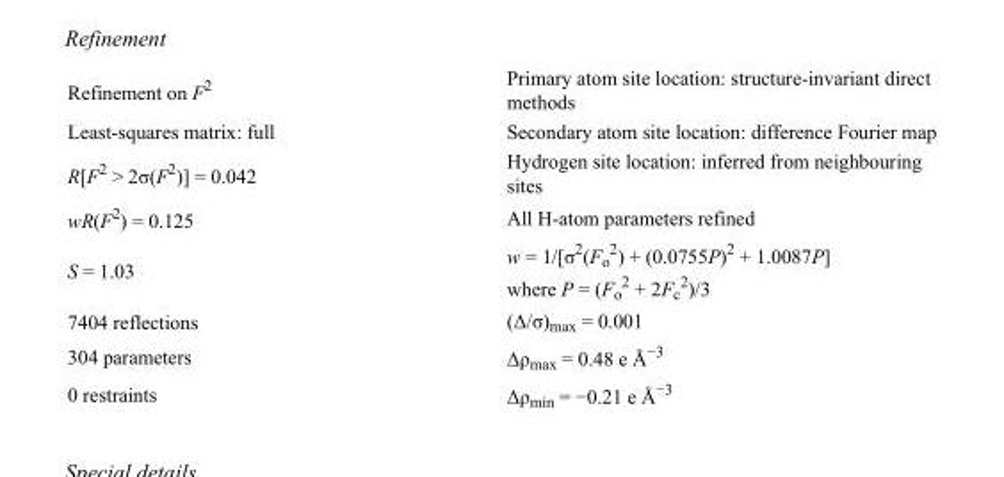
<table><tbody><tr><td>Refinement on F<sup>2</sup></td><td>Primary atom site location: structure-invariant direct methods</td></tr><tr><td>Least-squares matrix: full</td><td>Secondary atom site location: difference Fourier map</td></tr><tr><td>R[F<sup>2</sup> &gt; 2σ(F<sup>2</sup>)] = 0.042</td><td>Hydrogen site location: inferred from neighbouring sites</td></tr><tr><td>wR(F<sup>2</sup>) = 0.125</td><td>All H-atom parameters refined</td></tr><tr><td>S = 1.03</td><td>w = 1/[σ<sup>2</sup>(F<sub>o</sub> <sup>2</sup>) + (0.0755P)<sup>2</sup> + 1.0087P] where P = (F<sub>o</sub> <sup>2</sup> + 2F<sub>c</sub> <sup>2</sup>)/3</td></tr><tr><td>7404 reflections</td><td>(Δ/σ)<sub>max</sub> = 0.001</td></tr><tr><td>304 parameters</td><td>Δρ<sub>max</sub> = 0.48 e Å<sup>−3</sup></td></tr><tr><td>0 restraints</td><td>Δρ<sub>min</sub> = −0.21 e Å<sup>−3</sup></td></tr></tbody></table>